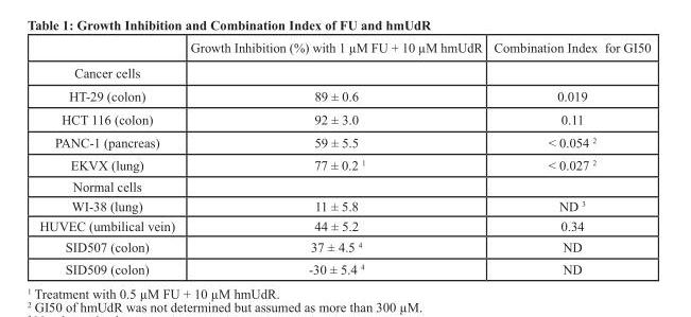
<table><thead><tr><td></td><td>Growth Inhibition (%) with 1 µM FU + 10 µM hmUdR</td><td>Combination Index for GI50</td></tr></thead><tbody><tr><td colspan="3">Cancer cells</td></tr><tr><td>HT-29 (colon)</td><td>89 ± 0.6</td><td>0.019</td></tr><tr><td>HCT 116 (colon)</td><td>92 ± 3.0</td><td>0.11</td></tr><tr><td>PANC-1 (pancreas)</td><td>59 ± 5.5</td><td>&lt; 0.054 <sup>2</sup></td></tr><tr><td>EKVX (lung)</td><td>77 ± 0.2 <sup>1</sup></td><td>&lt; 0.027 <sup>2</sup></td></tr><tr><td colspan="3">Normal cells</td></tr><tr><td>WI-38 (lung)</td><td>11 ± 5.8</td><td>ND <sup>3</sup></td></tr><tr><td>HUVEC (umbilical vein)</td><td>44 ± 5.2</td><td>0.34</td></tr><tr><td>SID507 (colon)</td><td>37 ± 4.5 <sup>4</sup></td><td>ND</td></tr><tr><td>SID509 (colon)</td><td>-30 ± 5.4 <sup>4</sup></td><td>ND</td></tr></tbody></table>